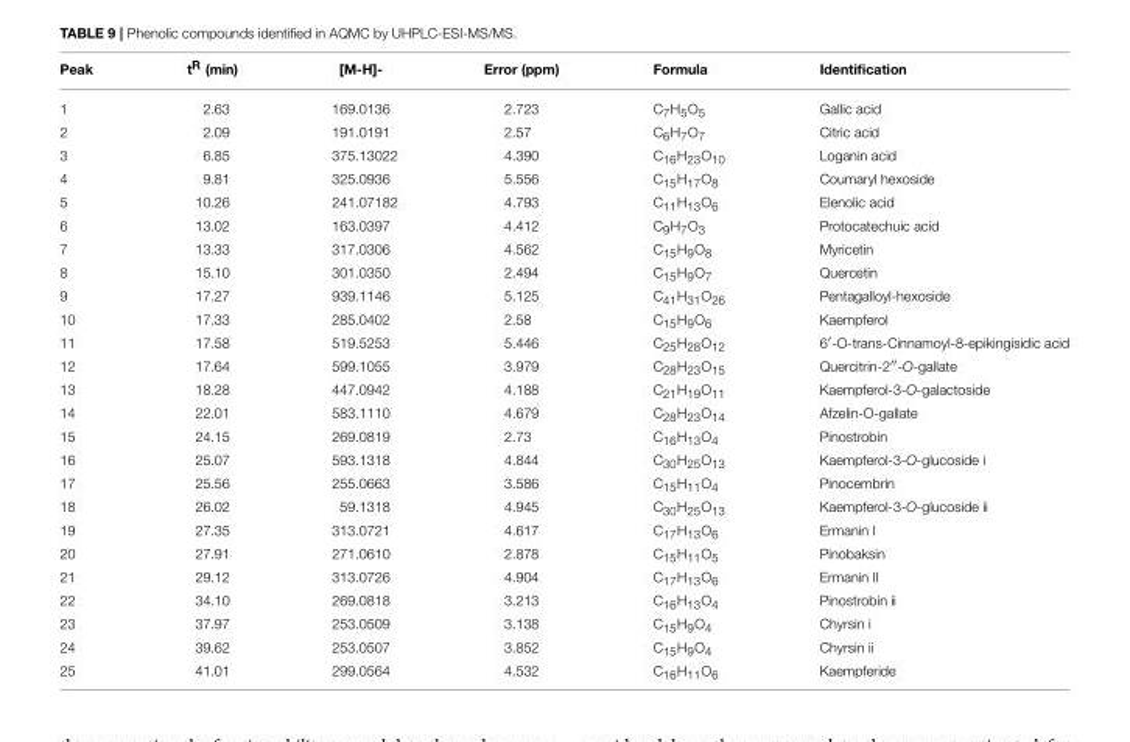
<table><thead><tr><td>Peak</td><td>t<sup>R</sup> (min)</td><td>[M-H]-</td><td>Error (ppm)</td><td>Formula</td><td>Identification</td></tr></thead><tbody><tr><td>1</td><td>2.63</td><td>169.0136</td><td>2.723</td><td>C<sub>7</sub>H<sub>5</sub>O<sub>5</sub></td><td>Gallic acid</td></tr><tr><td>2</td><td>2.09</td><td>191.0191</td><td>2.57</td><td>C<sub>6</sub>H<sub>7</sub>O<sub>7</sub></td><td>Citric acid</td></tr><tr><td>3</td><td>6.85</td><td>375.13022</td><td>4.390</td><td>C<sub>16</sub>H<sub>23</sub>O<sub>10</sub></td><td>Loganin acid</td></tr><tr><td>4</td><td>9.81</td><td>325.0936</td><td>5.556</td><td>C<sub>15</sub>H<sub>17</sub>O<sub>8</sub></td><td>Coumaryl hexoside</td></tr><tr><td>5</td><td>10.26</td><td>241.07182</td><td>4.793</td><td>C<sub>11</sub>H<sub>13</sub>O<sub>6</sub></td><td>Elenolic acid</td></tr><tr><td>6</td><td>13.02</td><td>163.0397</td><td>4.412</td><td>C<sub>9</sub>H<sub>7</sub>O<sub>3</sub></td><td>Protocatechuic acid</td></tr><tr><td>7</td><td>13.33</td><td>317.0306</td><td>4.562</td><td>C<sub>15</sub>H<sub>9</sub>O<sub>8</sub></td><td>Myricetin</td></tr><tr><td>8</td><td>15.10</td><td>301.0350</td><td>2.494</td><td>C<sub>15</sub>H<sub>9</sub>O<sub>7</sub></td><td>Quercetin</td></tr><tr><td>9</td><td>17.27</td><td>939.1146</td><td>5.125</td><td>C<sub>41</sub>H<sub>31</sub>O<sub>26</sub></td><td>Pentagalloyl-hexoside</td></tr><tr><td>10</td><td>17.33</td><td>285.0402</td><td>2.58</td><td>C<sub>15</sub>H<sub>9</sub>O<sub>6</sub></td><td>Kaempferol</td></tr><tr><td>11</td><td>17.58</td><td>519.5253</td><td>5.446</td><td>C<sub>25</sub>H<sub>28</sub>O<sub>12</sub></td><td>6′-O-trans-Cinnamoyl-8-epikingisidic acid</td></tr><tr><td>12</td><td>17.64</td><td>599.1055</td><td>3.979</td><td>C<sub>28</sub>H<sub>23</sub>O<sub>15</sub></td><td>Quercitrin-2′′-O-gallate</td></tr><tr><td>13</td><td>18.28</td><td>447.0942</td><td>4.188</td><td>C<sub>21</sub>H<sub>19</sub>O<sub>11</sub></td><td>Kaempferol-3-O-galactoside</td></tr><tr><td>14</td><td>22.01</td><td>583.1110</td><td>4.679</td><td>C<sub>28</sub>H<sub>23</sub>O<sub>14</sub></td><td>Afzelin-O-gallate</td></tr><tr><td>15</td><td>24.15</td><td>269.0819</td><td>2.73</td><td>C<sub>16</sub>H<sub>13</sub>O<sub>4</sub></td><td>Pinostrobin</td></tr><tr><td>16</td><td>25.07</td><td>593.1318</td><td>4.844</td><td>C<sub>30</sub>H<sub>25</sub>O<sub>13</sub></td><td>Kaempferol-3-O-glucoside i</td></tr><tr><td>17</td><td>25.56</td><td>255.0663</td><td>3.586</td><td>C<sub>15</sub>H<sub>11</sub>O<sub>4</sub></td><td>Pinocembrin</td></tr><tr><td>18</td><td>26.02</td><td>59.1318</td><td>4.945</td><td>C<sub>30</sub>H<sub>25</sub>O<sub>13</sub></td><td>Kaempferol-3-O-glucoside ii</td></tr><tr><td>19</td><td>27.35</td><td>313.0721</td><td>4.617</td><td>C<sub>17</sub>H<sub>13</sub>O<sub>6</sub></td><td>Ermanin I</td></tr><tr><td>20</td><td>27.91</td><td>271.0610</td><td>2.878</td><td>C<sub>15</sub>H<sub>11</sub>O<sub>5</sub></td><td>Pinobaksin</td></tr><tr><td>21</td><td>29.12</td><td>313.0726</td><td>4.904</td><td>C<sub>17</sub>H<sub>13</sub>O<sub>6</sub></td><td>Ermanin II</td></tr><tr><td>22</td><td>34.10</td><td>269.0818</td><td>3.213</td><td>C<sub>16</sub>H<sub>13</sub>O<sub>4</sub></td><td>Pinostrobin ii</td></tr><tr><td>23</td><td>37.97</td><td>253.0509</td><td>3.138</td><td>C<sub>15</sub>H<sub>9</sub>O<sub>4</sub></td><td>Chyrsin i</td></tr><tr><td>24</td><td>39.62</td><td>253.0507</td><td>3.852</td><td>C<sub>15</sub>H<sub>9</sub>O<sub>4</sub></td><td>Chyrsin ii</td></tr><tr><td>25</td><td>41.01</td><td>299.0564</td><td>4.532</td><td>C<sub>16</sub>H<sub>11</sub>O<sub>6</sub></td><td>Kaempferide</td></tr></tbody></table>